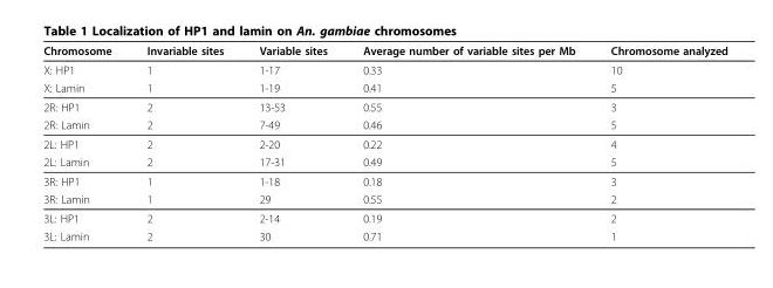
<table><thead><tr><td>Chromosome</td><td>Invariable sites</td><td>Variable sites</td><td>Average number of variable sites per Mb</td><td>Chromosome analyzed</td></tr></thead><tbody><tr><td>X: HP1</td><td>1</td><td>1-17</td><td>0.33</td><td>10</td></tr><tr><td>X: Lamin</td><td>1</td><td>1-19</td><td>0.41</td><td>5</td></tr><tr><td>2R: HP1</td><td>2</td><td>13-53</td><td>0.55</td><td>3</td></tr><tr><td>2R: Lamin</td><td>2</td><td>7-49</td><td>0.46</td><td>5</td></tr><tr><td>2L: HP1</td><td>2</td><td>2-20</td><td>0.22</td><td>4</td></tr><tr><td>2L: Lamin</td><td>2</td><td>17-31</td><td>0.49</td><td>5</td></tr><tr><td>3R: HP1</td><td>1</td><td>1-18</td><td>0.18</td><td>3</td></tr><tr><td>3R: Lamin</td><td>1</td><td>29</td><td>0.55</td><td>2</td></tr><tr><td>3L: HP1</td><td>2</td><td>2-14</td><td>0.19</td><td>2</td></tr><tr><td>3L: Lamin</td><td>2</td><td>30</td><td>0.71</td><td>1</td></tr></tbody></table>